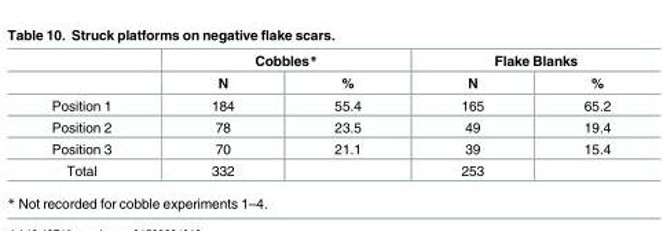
<table><thead><tr><td rowspan="2"></td><td colspan="2">Cobbles*</td><td colspan="2">Flake Blanks</td></tr><tr><td>N</td><td>%</td><td>N</td><td>%</td></tr></thead><tbody><tr><td>Position 1</td><td>184</td><td>55.4</td><td>165</td><td>65.2</td></tr><tr><td>Position 2</td><td>78</td><td>23.5</td><td>49</td><td>19.4</td></tr><tr><td>Position 3</td><td>70</td><td>21.1</td><td>39</td><td>15.4</td></tr><tr><td>Total</td><td>332</td><td></td><td>253</td><td></td></tr></tbody></table>